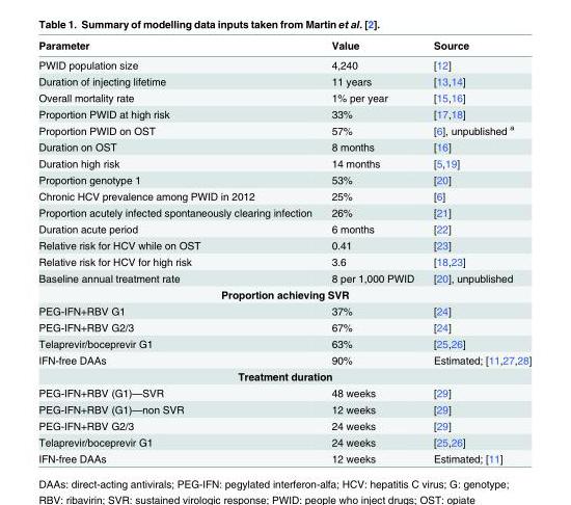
<table><thead><tr><td>Parameter</td><td>Value</td><td>Source</td></tr></thead><tbody><tr><td>PWID population size</td><td>4,240</td><td>[12]</td></tr><tr><td>Duration of injecting lifetime</td><td>11 years</td><td>[13,14]</td></tr><tr><td>Overall mortality rate</td><td>1% per year</td><td>[15,16]</td></tr><tr><td>Proportion PWID at high risk</td><td>33%</td><td>[17,18]</td></tr><tr><td>Proportion PWID on OST</td><td>57%</td><td>[6], unpublished <sup>a</sup></td></tr><tr><td>Duration on OST</td><td>8 months</td><td>[16]</td></tr><tr><td>Duration high risk</td><td>14 months</td><td>[5,19]</td></tr><tr><td>Proportion genotype 1</td><td>53%</td><td>[20]</td></tr><tr><td>Chronic HCV prevalence among PWID in 2012</td><td>25%</td><td>[6]</td></tr><tr><td>Proportion acutely infected spontaneously clearing infection</td><td>26%</td><td>[21]</td></tr><tr><td>Duration acute period</td><td>6 months</td><td>[22]</td></tr><tr><td>Relative risk for HCV while on OST</td><td>0.41</td><td>[23]</td></tr><tr><td>Relative risk for HCV for high risk</td><td>3.6</td><td>[18,23]</td></tr><tr><td>Baseline annual treatment rate</td><td>8 per 1,000 PWID</td><td>[20], unpublished</td></tr><tr><td colspan="3">Proportion achieving SVR</td></tr><tr><td>PEG-IFN+RBV G1</td><td>37%</td><td>[24]</td></tr><tr><td>PEG-IFN+RBV G2/3</td><td>67%</td><td>[24]</td></tr><tr><td>Telaprevir/boceprevir G1</td><td>63%</td><td>[25,26]</td></tr><tr><td>IFN-free DAAs</td><td>90%</td><td>Estimated; [11,27,28]</td></tr><tr><td colspan="3">Treatment duration</td></tr><tr><td>PEG-IFN+RBV (G1)—SVR</td><td>48 weeks</td><td>[29]</td></tr><tr><td>PEG-IFN+RBV (G1)—non SVR</td><td>12 weeks</td><td>[29]</td></tr><tr><td>PEG-IFN+RBV G2/3</td><td>24 weeks</td><td>[29]</td></tr><tr><td>Telaprevir/boceprevir G1</td><td>24 weeks</td><td>[25,26]</td></tr><tr><td>IFN-free DAAs</td><td>12 weeks</td><td>Estimated; [11]</td></tr></tbody></table>